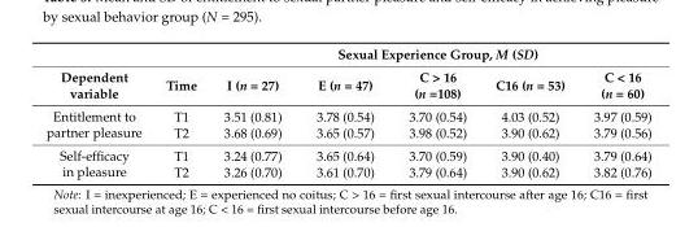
<table><thead><tr><td rowspan="2">Dependent variable</td><td rowspan="2">Time</td><td colspan="5">Sexual Experience Group, M (SD)</td></tr><tr><td>I (n = 27)</td><td>E (n = 47)</td><td>C &gt; 16 (n =108)</td><td>C16 (n = 53)</td><td>C &lt; 16 (n = 60)</td></tr></thead><tbody><tr><td rowspan="2">Entitlement to partner pleasure</td><td>T1</td><td>3.51 (0.81)</td><td>3.78 (0.54)</td><td>3.70 (0.54)</td><td>4.03 (0.52)</td><td>3.97 (0.59)</td></tr><tr><td>T2</td><td>3.68 (0.69)</td><td>3.65 (0.57)</td><td>3.98 (0.52)</td><td>3.90 (0.62)</td><td>3.79 (0.56)</td></tr><tr><td rowspan="2">Self-efficacy in pleasure</td><td>T1</td><td>3.24 (0.77)</td><td>3.65 (0.64)</td><td>3.70 (0.59)</td><td>3.90 (0.40)</td><td>3.79 (0.64)</td></tr><tr><td>T2</td><td>3.26 (0.70)</td><td>3.61 (0.70)</td><td>3.79 (0.64)</td><td>3.90 (0.62)</td><td>3.82 (0.76)</td></tr></tbody></table>